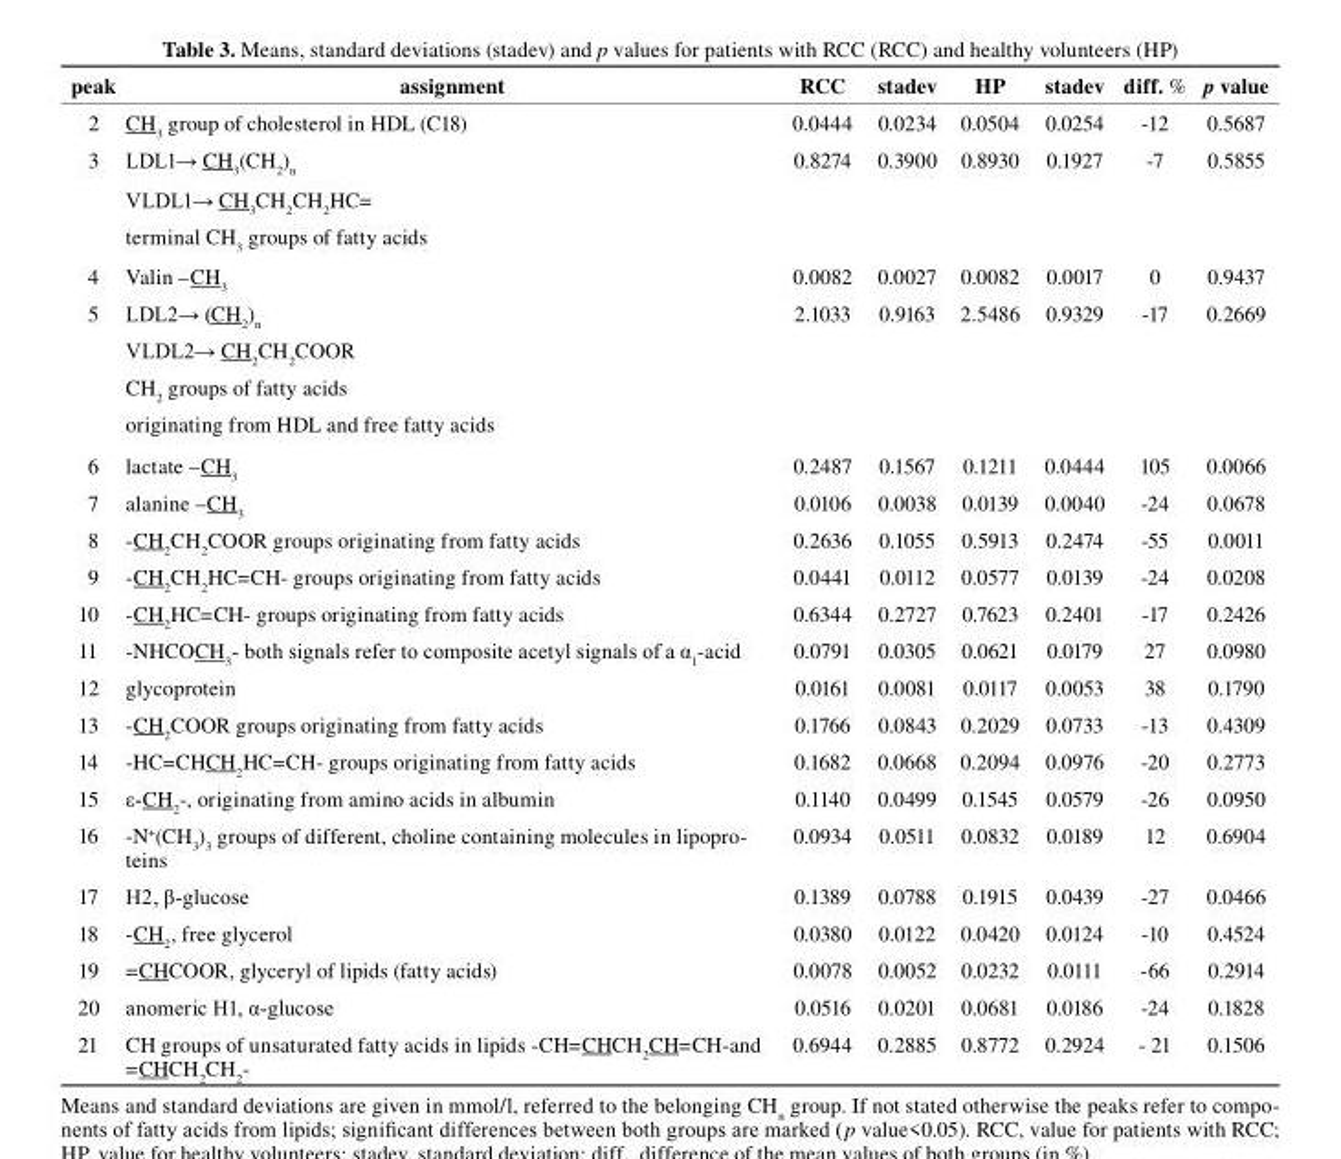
<table><thead><tr><td>peak</td><td>assignment</td><td>rcc</td><td>stadev</td><td>HP</td><td>stadev</td><td>diff. %</td><td>p value</td></tr></thead><tbody><tr><td>2</td><td>CH<sub>3</sub> group of cholesterol in HDL (C18)</td><td>0.0444</td><td>0.0234</td><td>0.0504</td><td>0.0254</td><td>-12</td><td>0.5687</td></tr><tr><td rowspan="3">3</td><td>LDL1→ CH<sub>3</sub>(CH<sub>2</sub>)<sub>n</sub></td><td>0.8274</td><td>0.3900</td><td>0.8930</td><td>0.1927</td><td>-7</td><td>0.5855</td></tr><tr><td>VLDL1→ CH<sub>3</sub>CH<sub>2</sub>CH<sub>2</sub>HC=</td><td></td><td></td><td></td><td></td><td></td><td></td></tr><tr><td>terminal CH<sub>3</sub> groups of fatty acids</td><td></td><td></td><td></td><td></td><td></td><td></td></tr><tr><td>4</td><td>Valin –CH<sub>3</sub></td><td>0.0082</td><td>0.0027</td><td>0.0082</td><td>0.0017</td><td>0</td><td>0.9437</td></tr><tr><td rowspan="4">5</td><td>LDL2→ (CH<sub>2</sub>)<sub>n</sub></td><td>2.1033</td><td>0.9163</td><td>2.5486</td><td>0.9329</td><td>-17</td><td>0.2669</td></tr><tr><td>VLDL2→ CH<sub>2</sub>CH<sub>2</sub>COOR</td><td rowspan="3"></td><td rowspan="3"></td><td rowspan="3"></td><td rowspan="3"></td><td rowspan="3"></td><td rowspan="3"></td></tr><tr><td>CH<sub>2</sub> groups of fatty acids</td></tr><tr><td>originating from HDL and free fatty acids</td></tr><tr><td>6</td><td>lactate –CH<sub>3</sub></td><td>0.2487</td><td>0.1567</td><td>0.1211</td><td>0.0444</td><td>105</td><td>0.0066</td></tr><tr><td>7</td><td>alanine –CH<sub>3</sub></td><td>0.0106</td><td>0.0038</td><td>0.0139</td><td>0.0040</td><td>-24</td><td>0.0678</td></tr><tr><td>8</td><td>-CH<sub>2</sub>CH<sub>2</sub>COOR groups originating from fatty acids</td><td>0.2636</td><td>0.1055</td><td>0.5913</td><td>0.2474</td><td>-55</td><td>0.0011</td></tr><tr><td>9</td><td>-CH<sub>2</sub>CH<sub>2</sub>HC=CH- groups originating from fatty acids</td><td>0.0441</td><td>0.0112</td><td>0.0577</td><td>0.0139</td><td>-24</td><td>0.0208</td></tr><tr><td>10</td><td>-CH<sub>2</sub>HC=CH- groups originating from fatty acids</td><td>0.6344</td><td>0.2727</td><td>0.7623</td><td>0.2401</td><td>-17</td><td>0.2426</td></tr><tr><td>11</td><td>-NHCOCH<sub>3</sub>- both signals refer to composite acetyl signals of a α1-acid</td><td>0.0791</td><td>0.0305</td><td>0.0621</td><td>0.0179</td><td>27</td><td>0.0980</td></tr><tr><td>12</td><td>glycoprotein</td><td>0.0161</td><td>0.0081</td><td>0.0117</td><td>0.0053</td><td>38</td><td>0.1790</td></tr><tr><td>13</td><td>-CH<sub>2</sub>COOR groups originating from fatty acids</td><td>0.1766</td><td>0.0843</td><td>0.2029</td><td>0.0733</td><td>-13</td><td>0.4309</td></tr><tr><td>14</td><td>-HC=CHCH<sub>2</sub>HC=CH- groups originating from fatty acids</td><td>0.1682</td><td>0.0668</td><td>0.2094</td><td>0.0976</td><td>-20</td><td>0.2773</td></tr><tr><td>15</td><td>ε-CH<sub>2</sub>-, originating from amino acids in albumin</td><td>0.1140</td><td>0.0499</td><td>0.1545</td><td>0.0579</td><td>-26</td><td>0.0950</td></tr><tr><td>16</td><td>-N+(CH3)3 groups of different, choline containing molecules in lipopro- teins</td><td>0.0934</td><td>0.0511</td><td>0.0832</td><td>0.0189</td><td>12</td><td>0.6904</td></tr><tr><td>17</td><td>H2, β-glucose</td><td>0.1389</td><td>0.0788</td><td>0.1915</td><td>0.0439</td><td>-27</td><td>0.0466</td></tr><tr><td>18</td><td>-CH<sub>2</sub>, free glycerol</td><td>0.0380</td><td>0.0122</td><td>0.0420</td><td>0.0124</td><td>-10</td><td>0.4524</td></tr><tr><td>19</td><td>=CHCOOR, glyceryl of lipids (fatty acids)</td><td>0.0078</td><td>0.0052</td><td>0.0232</td><td>0.0111</td><td>-66</td><td>0.2914</td></tr><tr><td>20</td><td>anomeric H1, α-glucose</td><td>0.0516</td><td>0.0201</td><td>0.0681</td><td>0.0186</td><td>-24</td><td>0.1828</td></tr><tr><td>21</td><td>CH groups of unsaturated fatty acids in lipids -CH=CHCH<sub>2</sub>CH=CH-and =CHCH<sub>2</sub>CH<sub>2</sub>-</td><td>0.6944</td><td>0.2885</td><td>0.8772</td><td>0.2924</td><td>- 21</td><td>0.1506</td></tr></tbody></table>